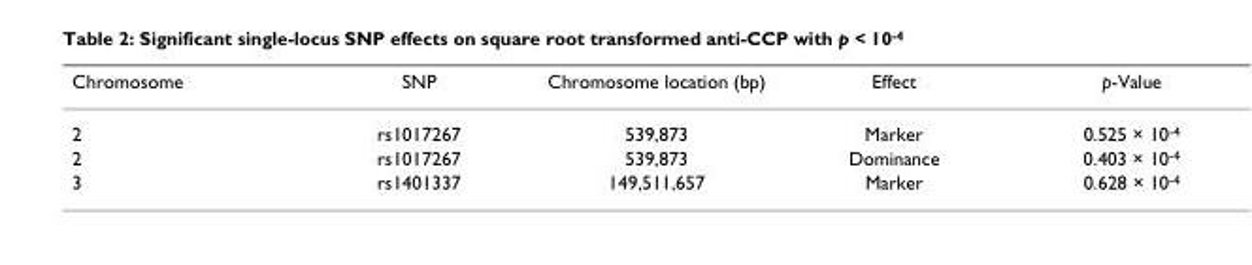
<table><thead><tr><td>Chromosome</td><td>SNP</td><td>Chromosome location (bp)</td><td>Effect</td><td>p-Value</td></tr></thead><tbody><tr><td>2</td><td>rs1017267</td><td>539,873</td><td>Marker</td><td>0.525 × 10<sup>-4</sup></td></tr><tr><td>2</td><td>rs1017267</td><td>539,873</td><td>Dominance</td><td>0.403 × 10<sup>-4</sup></td></tr><tr><td>3</td><td>rs1401337</td><td>149,511,657</td><td>Marker</td><td>0.628 × 10<sup>-4</sup></td></tr></tbody></table>